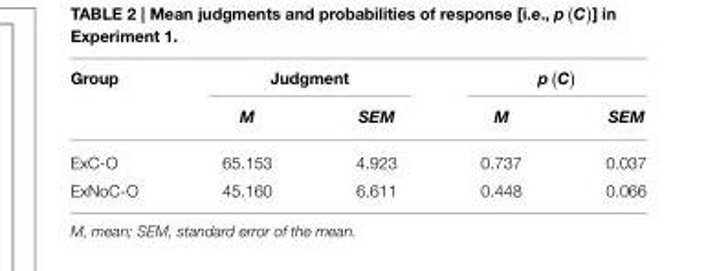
<table><thead><tr><td rowspan="2">Group</td><td colspan="2">Judgment</td><td colspan="2">p (C )</td></tr><tr><td>M</td><td>SEM</td><td>M</td><td>SEM</td></tr></thead><tbody><tr><td>ExC-O</td><td>65.153</td><td>4.923</td><td>0.737</td><td>0.037</td></tr><tr><td>ExNoC-O</td><td>45.160</td><td>6.611</td><td>0.448</td><td>0.066</td></tr></tbody></table>